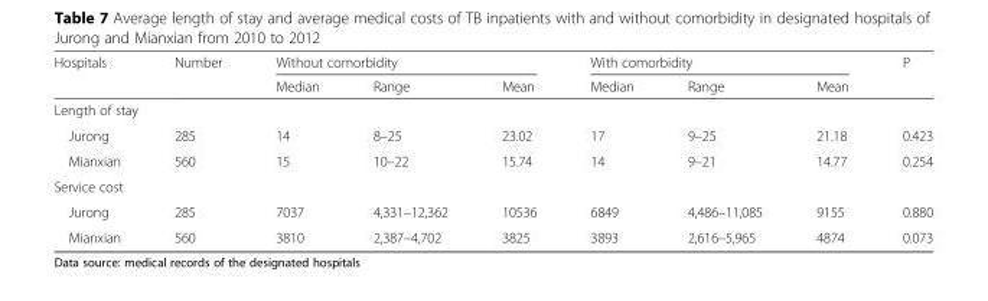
<table><thead><tr><td rowspan="2">Hospitals</td><td rowspan="2">Number</td><td colspan="3">Without comorbidity</td><td colspan="3">With comorbidity</td><td rowspan="2">P</td></tr><tr><td>Median</td><td>Range</td><td>Mean</td><td>Median</td><td>Range</td><td>Mean</td></tr></thead><tbody><tr><td colspan="9">Length of stay</td></tr><tr><td>Jurong</td><td>285</td><td>14</td><td>8–25</td><td>23.02</td><td>17</td><td>9–25</td><td>21.18</td><td>0.423</td></tr><tr><td>Mianxian</td><td>560</td><td>15</td><td>10–22</td><td>15.74</td><td>14</td><td>9–21</td><td>14.77</td><td>0.254</td></tr><tr><td colspan="9">Service cost</td></tr><tr><td>Jurong</td><td>285</td><td>7037</td><td>4,331–12,362</td><td>10536</td><td>6849</td><td>4,486–11,085</td><td>9155</td><td>0.880</td></tr><tr><td>Mianxian</td><td>560</td><td>3810</td><td>2,387–4,702</td><td>3825</td><td>3893</td><td>2,616–5,965</td><td>4874</td><td>0.073</td></tr></tbody></table>